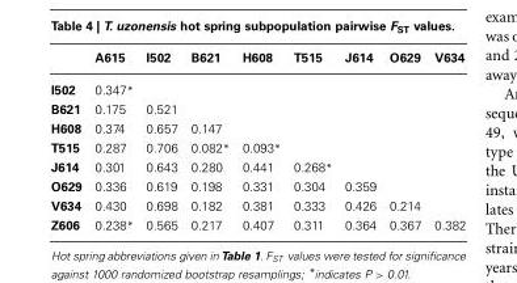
<table><thead><tr><td></td><td>A615</td><td>I502</td><td>B621</td><td>H608</td><td>T515</td><td>J614</td><td>O629</td><td>V634</td></tr></thead><tbody><tr><td>I502</td><td>0.347*</td><td></td><td></td><td></td><td></td><td></td><td></td><td></td></tr><tr><td>B621</td><td>0.175</td><td>0.521</td><td></td><td></td><td></td><td></td><td></td><td></td></tr><tr><td>H608</td><td>0.374</td><td>0.657</td><td>0.147</td><td></td><td></td><td></td><td></td><td></td></tr><tr><td>T515</td><td>0.287</td><td>0.706</td><td>0.082*</td><td>0.093*</td><td></td><td></td><td></td><td></td></tr><tr><td>J614</td><td>0.301</td><td>0.643</td><td>0.280</td><td>0.441</td><td>0.268*</td><td></td><td></td><td></td></tr><tr><td>O629</td><td>0.336</td><td>0.619</td><td>0.198</td><td>0.331</td><td>0.304</td><td>0.359</td><td></td><td></td></tr><tr><td>V634</td><td>0.430</td><td>0.698</td><td>0.182</td><td>0.381</td><td>0.333</td><td>0.426</td><td>0.214</td><td></td></tr><tr><td>Z606</td><td>0.238*</td><td>0.565</td><td>0.217</td><td>0.407</td><td>0.311</td><td>0.364</td><td>0.367</td><td>0.382</td></tr></tbody></table>